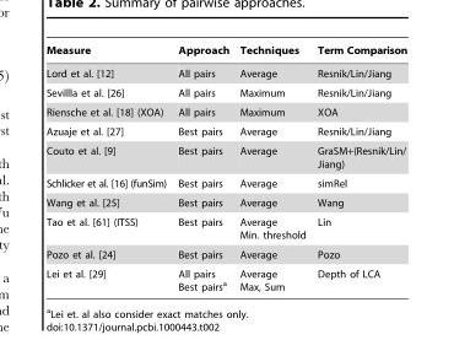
<table><thead><tr><td>Measure</td><td>Approach</td><td>Techniques</td><td>Term Comparison</td></tr></thead><tbody><tr><td>Lord et al. [12]</td><td>All pairs</td><td>Average</td><td>Resnik/Lin/Jiang</td></tr><tr><td>Sevillla et al. [26]</td><td>All pairs</td><td>Maximum</td><td>Resnik/Lin/Jiang</td></tr><tr><td>Riensche et al. [18] (XOA)</td><td>All pairs</td><td>Maximum</td><td>XOA</td></tr><tr><td>Azuaje et al. [27]</td><td>Best pairs</td><td>Average</td><td>Resnik/Lin/Jiang</td></tr><tr><td>Couto et al. [9]</td><td>Best pairs</td><td>Average</td><td>GraSM+(Resnik/Lin/ Jiang)</td></tr><tr><td>Schlicker et al. [16] (funSim)</td><td>Best pairs</td><td>Average</td><td>simRel</td></tr><tr><td>Wang et al. [25]</td><td>Best pairs</td><td>Average</td><td>Wang</td></tr><tr><td>Tao et al. [61] (ITSS)</td><td>Best pairs</td><td>Average Min. threshold</td><td>Lin</td></tr><tr><td>Pozo et al. [24]</td><td>Best pairs</td><td>Average</td><td>Pozo</td></tr><tr><td>Lei et al. [29]</td><td>All pairs Best pairs<sup>a</sup></td><td>Average Max, Sum</td><td>Depth of LCA</td></tr></tbody></table>